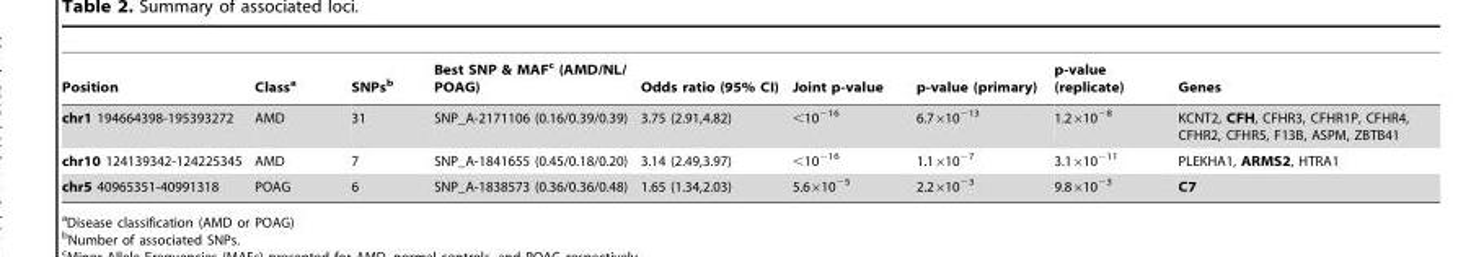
<table><thead><tr><td>Position</td><td>Class<sup>a</sup></td><td>SNPs<sup>b</sup></td><td>Best SNP &amp; MAF<sup>c</sup> (AMD/NL/ POAG)</td><td>Odds ratio (95% CI)</td><td>Joint p-value</td><td>p-value (primary)</td><td>p-value (replicate)</td><td>Genes</td></tr></thead><tbody><tr><td>chr1 194664398-195393272</td><td>AMD</td><td>31</td><td>SNP_A-2171106 (0.16/0.39/0.39)</td><td>3.75 (2.91,4.82)</td><td>&lt;10<sup>−16</sup></td><td>6.7×10<sup>−13</sup></td><td>1.2×10<sup>−8</sup></td><td>KCNT2, CFH, CFHR3, CFHR1P, CFHR4, CFHR2, CFHR5, F13B, ASPM, ZBTB41</td></tr><tr><td>chr10 124139342-124225345</td><td>AMD</td><td>7</td><td>SNP_A-1841655 (0.45/0.18/0.20)</td><td>3.14 (2.49,3.97)</td><td>&lt;10<sup>−16</sup></td><td>1.1×10<sup>−7</sup></td><td>3.1×10<sup>−11</sup></td><td>PLEKHA1, ARMS2, HTRA1</td></tr><tr><td>chr5 40965351-40991318</td><td>POAG</td><td>6</td><td>SNP_A-1838573 (0.36/0.36/0.48)</td><td>1.65 (1.34,2.03)</td><td>5.6×10<sup>−5</sup></td><td>2.2×10<sup>−3</sup></td><td>9.8×10<sup>−3</sup></td><td>C7</td></tr></tbody></table>